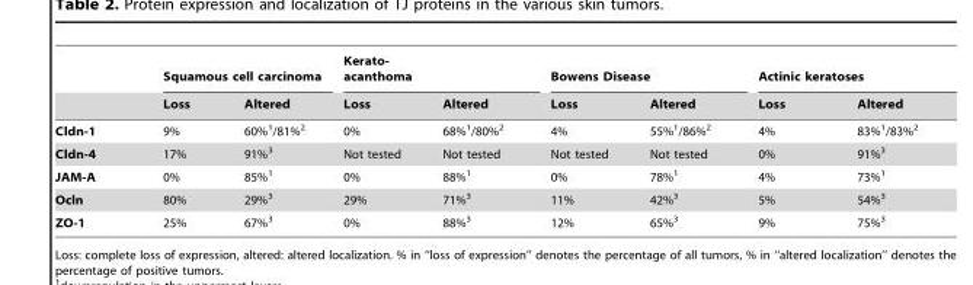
<table><thead><tr><td rowspan="2"></td><td colspan="2">Squamous cell carcinoma</td><td colspan="2">Kerato- acanthoma</td><td colspan="2">Bowens Disease</td><td colspan="2">Actinic keratoses</td></tr><tr><td>Loss</td><td>Altered</td><td>Loss</td><td>Altered</td><td>Loss</td><td>Altered</td><td>Loss</td><td>Altered</td></tr></thead><tbody><tr><td>Cldn-1</td><td>9%</td><td>60%<sup>1</sup>/81%<sup>2</sup></td><td>0%</td><td>68%<sup>1</sup>/80%<sup>2</sup></td><td>4%</td><td>55%<sup>1</sup>/86%<sup>2</sup></td><td>4%</td><td>83%<sup>1</sup>/83%<sup>2</sup></td></tr><tr><td>Cldn-4</td><td>17%</td><td>91%<sup>3</sup></td><td>Not tested</td><td>Not tested</td><td>Not tested</td><td>Not tested</td><td>0%</td><td>91%<sup>3</sup></td></tr><tr><td>JAM-A</td><td>0%</td><td>85%<sup>1</sup></td><td>0%</td><td>88%<sup>1</sup></td><td>0%</td><td>78%<sup>1</sup></td><td>4%</td><td>73%<sup>1</sup></td></tr><tr><td>Ocln</td><td>80%</td><td>29%<sup>3</sup></td><td>29%</td><td>71%<sup>3</sup></td><td>11%</td><td>42%<sup>3</sup></td><td>5%</td><td>54%<sup>3</sup></td></tr><tr><td>ZO-1</td><td>25%</td><td>67%<sup>3</sup></td><td>0%</td><td>88%<sup>3</sup></td><td>12%</td><td>65%<sup>3</sup></td><td>9%</td><td>75%<sup>3</sup></td></tr></tbody></table>